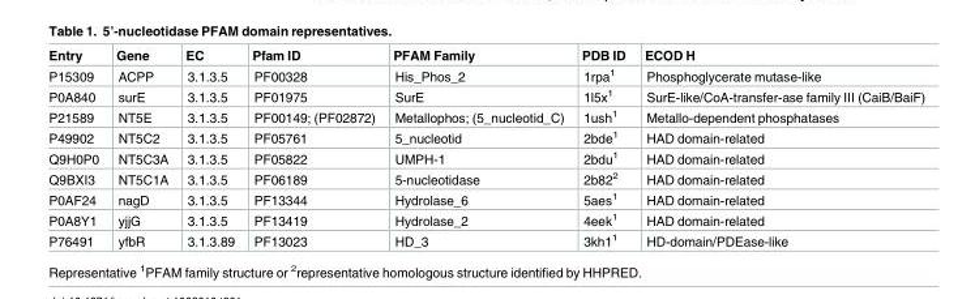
<table><thead><tr><td>Entry</td><td>Gene</td><td>EC</td><td>Pfam ID</td><td>PFAM Family</td><td>PDB ID</td><td>ECOD H</td></tr></thead><tbody><tr><td>P15309</td><td>ACPP</td><td>3.1.3.5</td><td>PF00328</td><td>His_Phos_2</td><td>1rpa<sup>1</sup></td><td>Phosphoglycerate mutase-like</td></tr><tr><td>P0A840</td><td>surE</td><td>3.1.3.5</td><td>PF01975</td><td>SurE</td><td>1l5x<sup>1</sup></td><td>SurE-like/CoA-transfer-ase family III (CaiB/BaiF)</td></tr><tr><td>P21589</td><td>NT5E</td><td>3.1.3.5</td><td>PF00149; (PF02872)</td><td>Metallophos; (5_nucleotid_C)</td><td>1ush<sup>1</sup></td><td>Metallo-dependent phosphatases</td></tr><tr><td>P49902</td><td>NT5C2</td><td>3.1.3.5</td><td>PF05761</td><td>5_nucleotid</td><td>2bde<sup>1</sup></td><td>HAD domain-related</td></tr><tr><td>Q9H0P0</td><td>NT5C3A</td><td>3.1.3.5</td><td>PF05822</td><td>UMPH-1</td><td>2bdu<sup>1</sup></td><td>HAD domain-related</td></tr><tr><td>Q9BXI3</td><td>NT5C1A</td><td>3.1.3.5</td><td>PF06189</td><td>5-nucleotidase</td><td>2b82<sup>2</sup></td><td>HAD domain-related</td></tr><tr><td>P0AF24</td><td>nagD</td><td>3.1.3.5</td><td>PF13344</td><td>Hydrolase_6</td><td>5aes<sup>1</sup></td><td>HAD domain-related</td></tr><tr><td>P0A8Y1</td><td>yjjG</td><td>3.1.3.5</td><td>PF13419</td><td>Hydrolase_2</td><td>4eek<sup>1</sup></td><td>HAD domain-related</td></tr><tr><td>P76491</td><td>yfbR</td><td>3.1.3.89</td><td>PF13023</td><td>HD_3</td><td>3kh1<sup>1</sup></td><td>HD-domain/PDEase-like</td></tr></tbody></table>